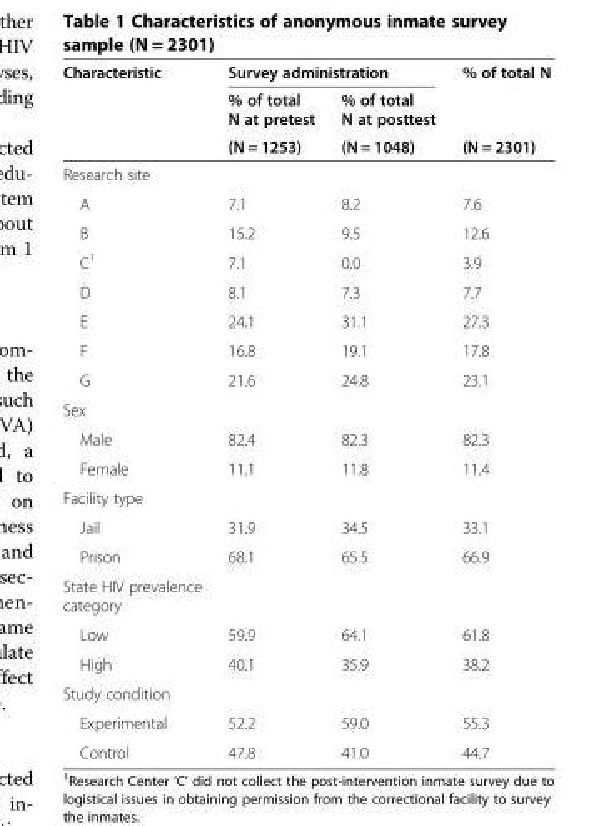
<table><thead><tr><td rowspan="3">Characteristic</td><td colspan="2">Survey administration</td><td rowspan="3">% of total N (N = 2301)</td></tr><tr><td rowspan="2">% of total N at pretest (N = 1253)</td><td rowspan="2">% of total N at posttest (N = 1048)</td></tr><tr></tr></thead><tbody><tr><td colspan="4">Research site</td></tr><tr><td>A</td><td>7.1</td><td>8.2</td><td>7.6</td></tr><tr><td>B</td><td>15.2</td><td>9.5</td><td>12.6</td></tr><tr><td>C<sup>1</sup></td><td>7.1</td><td>0.0</td><td>3.9</td></tr><tr><td>D</td><td>8.1</td><td>7.3</td><td>7.7</td></tr><tr><td>E</td><td>24.1</td><td>31.1</td><td>27.3</td></tr><tr><td>F</td><td>16.8</td><td>19.1</td><td>17.8</td></tr><tr><td>G</td><td>21.6</td><td>24.8</td><td>23.1</td></tr><tr><td colspan="4">Sex</td></tr><tr><td>Male</td><td>82.4</td><td>82.3</td><td>82.3</td></tr><tr><td>Female</td><td>11.1</td><td>11.8</td><td>11.4</td></tr><tr><td colspan="4">Facility type</td></tr><tr><td>Jail</td><td>31.9</td><td>34.5</td><td>33.1</td></tr><tr><td>Prison</td><td>68.1</td><td>65.5</td><td>66.9</td></tr><tr><td colspan="4">State HIV prevalence category</td></tr><tr><td>Low</td><td>59.9</td><td>64.1</td><td>61.8</td></tr><tr><td>High</td><td>40.1</td><td>35.9</td><td>38.2</td></tr><tr><td colspan="4">Study condition</td></tr><tr><td>Experimental</td><td>52.2</td><td>59.0</td><td>55.3</td></tr><tr><td>Control</td><td>47.8</td><td>41.0</td><td>44.7</td></tr></tbody></table>